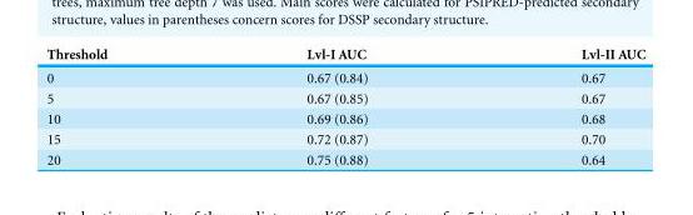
<table><thead><tr><td>Threshold</td><td>Lvl-I AUC</td><td>Lvl-II AUC</td></tr></thead><tbody><tr><td>0</td><td>0.67 (0.84)</td><td>0.67</td></tr><tr><td>5</td><td>0.67 (0.85)</td><td>0.67</td></tr><tr><td>10</td><td>0.69 (0.86)</td><td>0.68</td></tr><tr><td>15</td><td>0.72 (0.87)</td><td>0.70</td></tr><tr><td>20</td><td>0.75 (0.88)</td><td>0.64</td></tr></tbody></table>